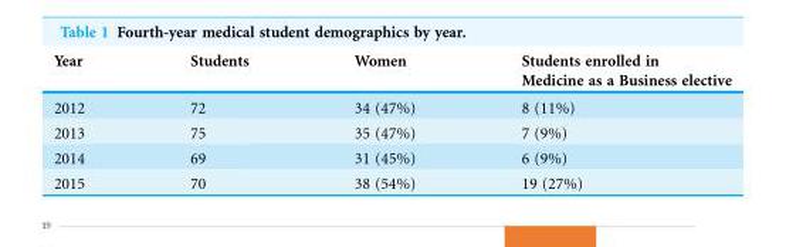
<table><thead><tr><td>Year</td><td>Students</td><td>Women</td><td>Students enrolled in Medicine as a Business elective</td></tr></thead><tbody><tr><td>2012</td><td>72</td><td>34 (47%)</td><td>8 (11%)</td></tr><tr><td>2013</td><td>75</td><td>35 (47%)</td><td>7 (9%)</td></tr><tr><td>2014</td><td>69</td><td>31 (45%)</td><td>6 (9%)</td></tr><tr><td>2015</td><td>70</td><td>38 (54%)</td><td>19 (27%)</td></tr></tbody></table>